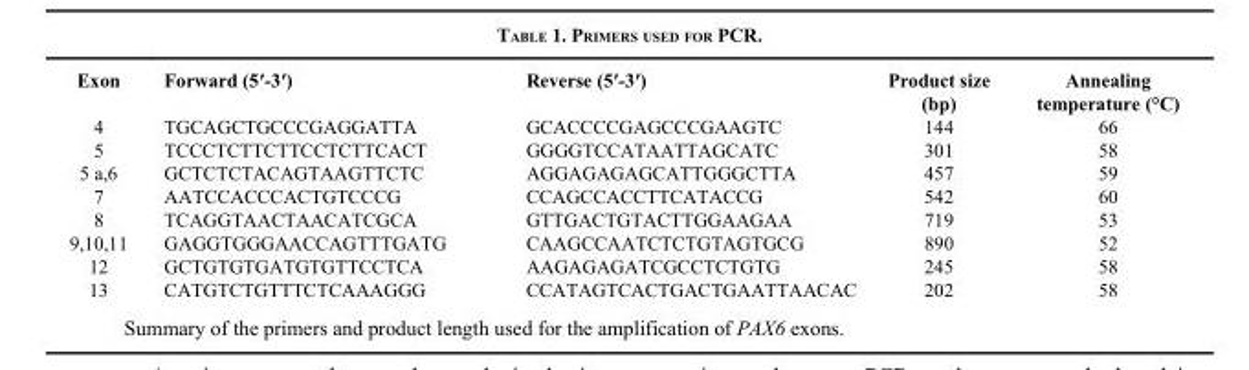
<table><thead><tr><td>Exon</td><td>Forward (5′-3′)</td><td>Reverse (5′-3′)</td><td>Product size (bp)</td><td>Annealing temperature (°C)</td></tr></thead><tbody><tr><td>4</td><td>TGCAGCTGCCCGAGGATTA</td><td>GCACCCCGAGCCCGAAGTC</td><td>144</td><td>66</td></tr><tr><td>5</td><td>TCCCTCTTCTTCCTCTTCACT</td><td>GGGGTCCATAATTAGCATC</td><td>301</td><td>58</td></tr><tr><td>5 a,6</td><td>GCTCTCTACAGTAAGTTCTC</td><td>AGGAGAGAGCATTGGGCTTA</td><td>457</td><td>59</td></tr><tr><td>7</td><td>AATCCACCCACTGTCCCG</td><td>CCAGCCACCTTCATACCG</td><td>542</td><td>60</td></tr><tr><td>8</td><td>TCAGGTAACTAACATCGCA</td><td>GTTGACTGTACTTGGAAGAA</td><td>719</td><td>53</td></tr><tr><td>9,10,11</td><td>GAGGTGGGAACCAGTTTGATG</td><td>CAAGCCAATCTCTGTAGTGCG</td><td>890</td><td>52</td></tr><tr><td>12</td><td>GCTGTGTGATGTGTTCCTCA</td><td>AAGAGAGATCGCCTCTGTG</td><td>245</td><td>58</td></tr><tr><td>13</td><td>CATGTCTGTTTCTCAAAGGG</td><td>CCATAGTCACTGACTGAATTAACAC</td><td>202</td><td>58</td></tr></tbody></table>